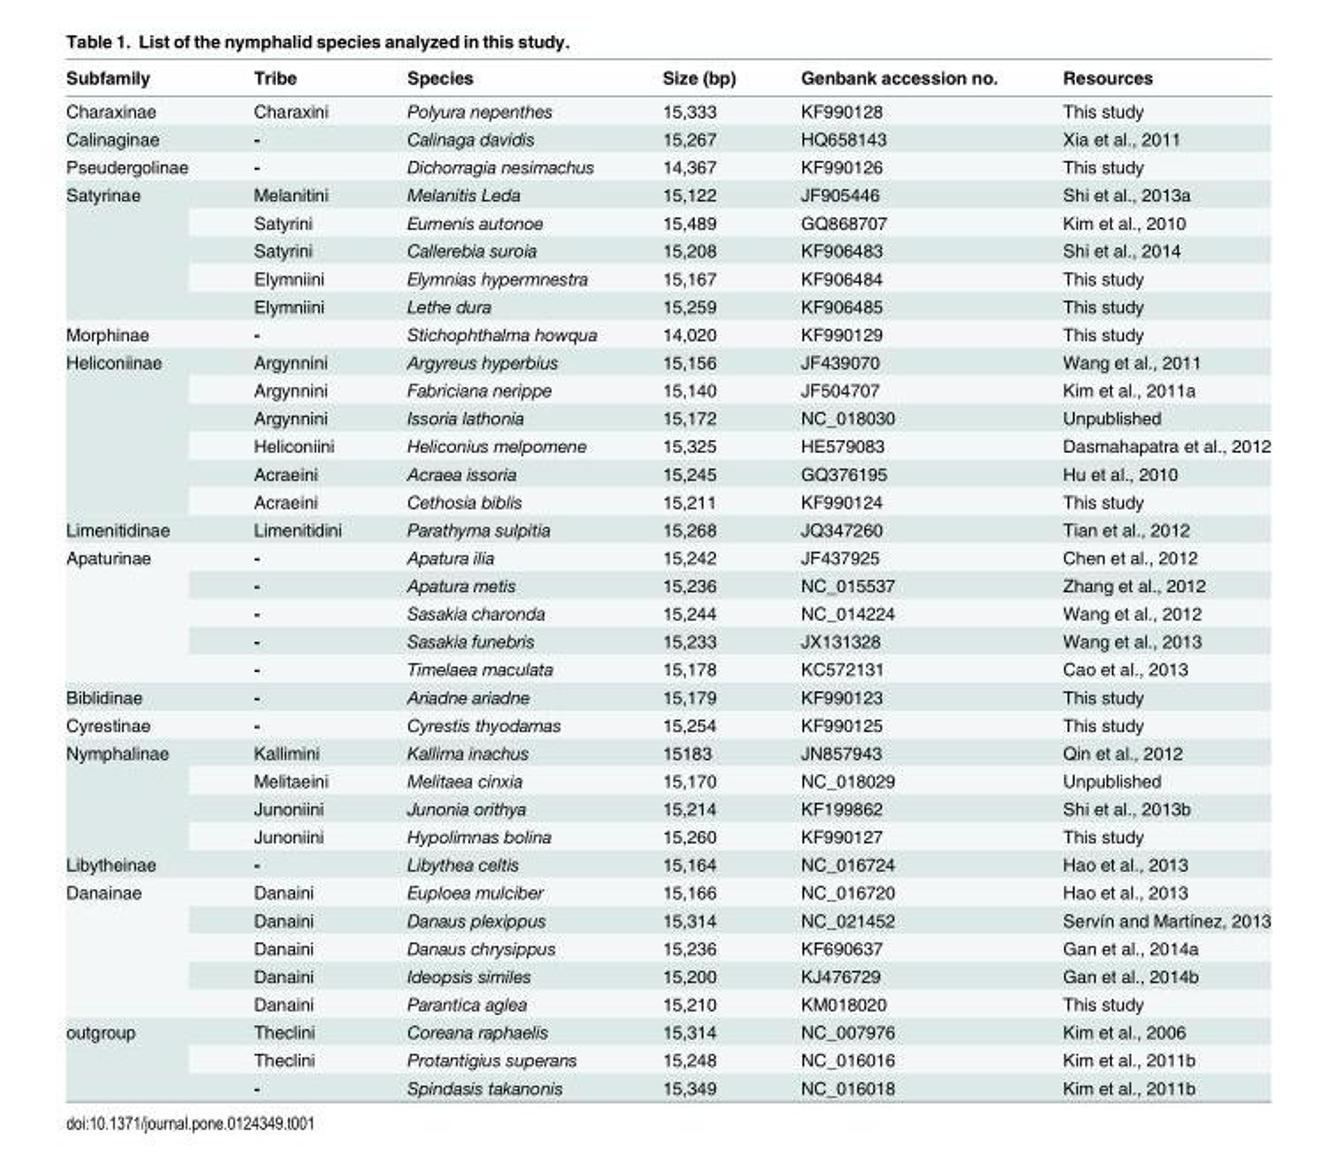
<table><thead><tr><td>Subfamily</td><td>Tribe</td><td>Species</td><td>Size (bp)</td><td>Genbank accession no.</td><td>Resources</td></tr></thead><tbody><tr><td>Charaxinae</td><td>Charaxini</td><td>Polyura nepenthes</td><td>15,333</td><td>KF990128</td><td>This study</td></tr><tr><td>Calinaginae</td><td>-</td><td>Calinaga davidis</td><td>15,267</td><td>HQ658143</td><td>Xia et al., 2011</td></tr><tr><td>Pseudergolinae</td><td>-</td><td>Dichorragia nesimachus</td><td>14,367</td><td>KF990126</td><td>This study</td></tr><tr><td rowspan="5">Satyrinae</td><td>Melanitini</td><td>Melanitis Leda</td><td>15,122</td><td>JF905446</td><td>Shi et al., 2013a</td></tr><tr><td>Satyrini</td><td>Eumenis autonoe</td><td>15,489</td><td>GQ868707</td><td>Kim et al., 2010</td></tr><tr><td>Satyrini</td><td>Callerebia suroia</td><td>15,208</td><td>KF906483</td><td>Shi et al., 2014</td></tr><tr><td>Elymniini</td><td>Elymnias hypermnestra</td><td>15,167</td><td>KF906484</td><td>This study</td></tr><tr><td>Elymniini</td><td>Lethe dura</td><td>15,259</td><td>KF906485</td><td>This study</td></tr><tr><td>Morphinae</td><td>-</td><td>Stichophthalma howqua</td><td>14,020</td><td>KF990129</td><td>This study</td></tr><tr><td rowspan="6">Heliconiinae</td><td>Argynnini</td><td>Argyreus hyperbius</td><td>15,156</td><td>JF439070</td><td>Wang et al., 2011</td></tr><tr><td>Argynnini</td><td>Fabriciana nerippe</td><td>15,140</td><td>JF504707</td><td>Kim et al., 2011a</td></tr><tr><td>Argynnini</td><td>Issoria lathonia</td><td>15,172</td><td>NC_018030</td><td>Unpublished</td></tr><tr><td>Heliconiini</td><td>Heliconius melpomene</td><td>15,325</td><td>HE579083</td><td>Dasmahapatra et al., 2012</td></tr><tr><td>Acraeini</td><td>Acraea issoria</td><td>15,245</td><td>GQ376195</td><td>Hu et al., 2010</td></tr><tr><td>Acraeini</td><td>Cethosia biblis</td><td>15,211</td><td>KF990124</td><td>This study</td></tr><tr><td>Limenitidinae</td><td>Limenitidini</td><td>Parathyma sulpitia</td><td>15,268</td><td>JQ347260</td><td>Tian et al., 2012</td></tr><tr><td rowspan="5">Apaturinae</td><td>-</td><td>Apatura ilia</td><td>15,242</td><td>JF437925</td><td>Chen et al., 2012</td></tr><tr><td>-</td><td>Apatura metis</td><td>15,236</td><td>NC_015537</td><td>Zhang et al., 2012</td></tr><tr><td>-</td><td>Sasakia charonda</td><td>15,244</td><td>NC_014224</td><td>Wang et al., 2012</td></tr><tr><td>-</td><td>Sasakia funebris</td><td>15,233</td><td>JX131328</td><td>Wang et al., 2013</td></tr><tr><td>-</td><td>Timelaea maculata</td><td>15,178</td><td>KC572131</td><td>Cao et al., 2013</td></tr><tr><td>Biblidinae</td><td>-</td><td>Ariadne ariadne</td><td>15,179</td><td>KF990123</td><td>This study</td></tr><tr><td>Cyrestinae</td><td>-</td><td>Cyrestis thyodamas</td><td>15,254</td><td>KF990125</td><td>This study</td></tr><tr><td rowspan="4">Nymphalinae</td><td>Kallimini</td><td>Kallima inachus</td><td>15183</td><td>JN857943</td><td>Qin et al., 2012</td></tr><tr><td>Melitaeini</td><td>Melitaea cinxia</td><td>15,170</td><td>NC_018029</td><td>Unpublished</td></tr><tr><td>Junoniini</td><td>Junonia orithya</td><td>15,214</td><td>KF199862</td><td>Shi et al., 2013b</td></tr><tr><td>Junoniini</td><td>Hypolimnas bolina</td><td>15,260</td><td>KF990127</td><td>This study</td></tr><tr><td>Libytheinae</td><td>-</td><td>Libythea celtis</td><td>15,164</td><td>NC_016724</td><td>Hao et al., 2013</td></tr><tr><td rowspan="5">Danainae</td><td>Danaini</td><td>Euploea mulciber</td><td>15,166</td><td>NC_016720</td><td>Hao et al., 2013</td></tr><tr><td>Danaini</td><td>Danaus plexippus</td><td>15,314</td><td>NC_021452</td><td>Servín and Martínez, 2013</td></tr><tr><td>Danaini</td><td>Danaus chrysippus</td><td>15,236</td><td>KF690637</td><td>Gan et al., 2014a</td></tr><tr><td>Danaini</td><td>Ideopsis similes</td><td>15,200</td><td>KJ476729</td><td>Gan et al., 2014b</td></tr><tr><td>Danaini</td><td>Parantica aglea</td><td>15,210</td><td>KM018020</td><td>This study</td></tr><tr><td rowspan="3">outgroup</td><td>Theclini</td><td>Coreana raphaelis</td><td>15,314</td><td>NC_007976</td><td>Kim et al., 2006</td></tr><tr><td>Theclini</td><td>Protantigius superans</td><td>15,248</td><td>NC_016016</td><td>Kim et al., 2011b</td></tr><tr><td>-</td><td>Spindasis takanonis</td><td>15,349</td><td>NC_016018</td><td>Kim et al., 2011b</td></tr></tbody></table>